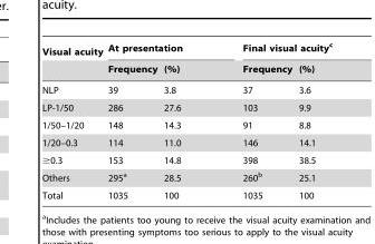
<table><thead><tr><td rowspan="2">Visual acuity</td><td colspan="2">At presentation</td><td colspan="2">Final visual acuity<sup>c</sup></td></tr><tr><td>Frequency</td><td>(%)</td><td>Frequency</td><td>(%)</td></tr></thead><tbody><tr><td>NLP</td><td>39</td><td>3.8</td><td>37</td><td>3.6</td></tr><tr><td>LP-1/50</td><td>286</td><td>27.6</td><td>103</td><td>9.9</td></tr><tr><td>1/50–1/20</td><td>148</td><td>14.3</td><td>91</td><td>8.8</td></tr><tr><td>1/20–0.3</td><td>114</td><td>11.0</td><td>146</td><td>14.1</td></tr><tr><td>≥0.3</td><td>153</td><td>14.8</td><td>398</td><td>38.5</td></tr><tr><td>Others</td><td>295<sup>a</sup></td><td>28.5</td><td>260<sup>b</sup></td><td>25.1</td></tr><tr><td>Total</td><td>1035</td><td>100</td><td>1035</td><td>100</td></tr></tbody></table>